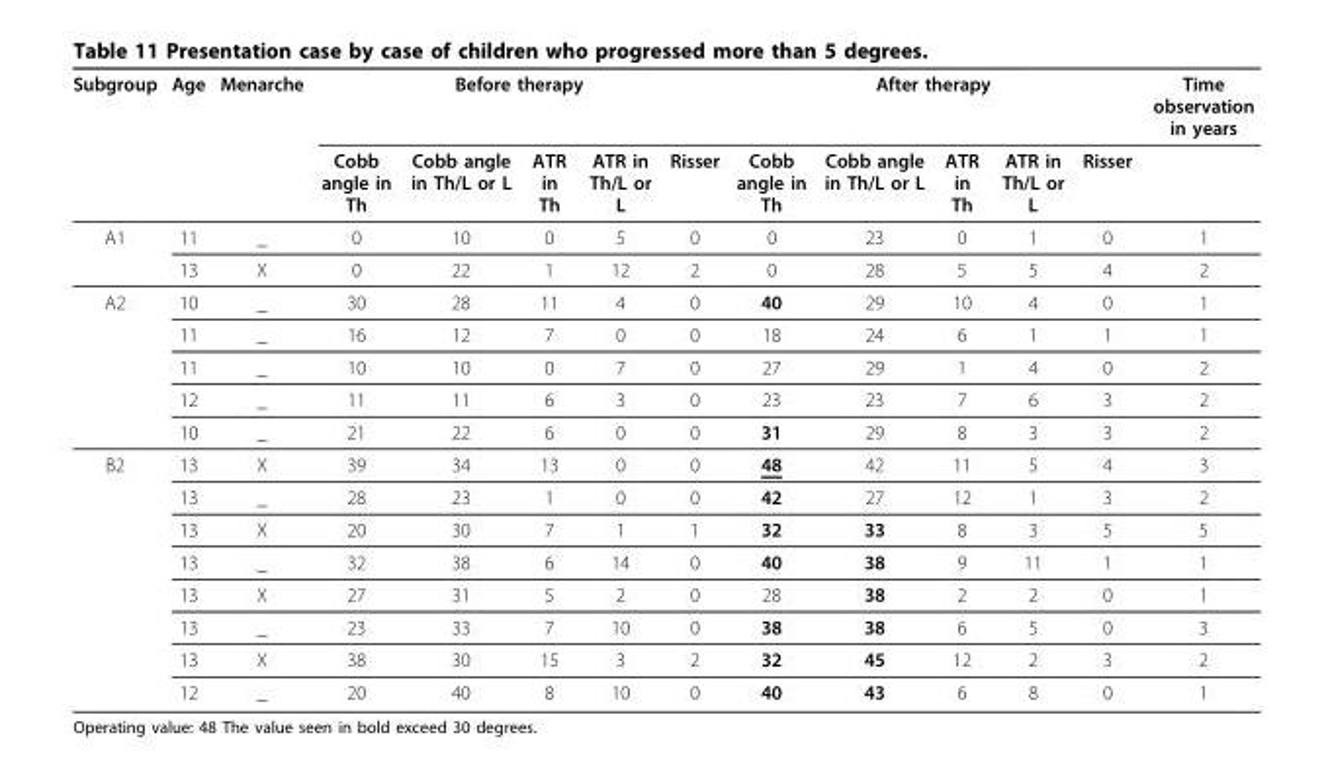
<table><thead><tr><td rowspan="2">Subgroup</td><td rowspan="2">Age</td><td rowspan="2">Menarche</td><td colspan="5">Before therapy</td><td colspan="5">After therapy</td><td rowspan="2">Time observation in years</td></tr><tr><td>Cobb angle in Th</td><td>Cobb angle in Th/L or L</td><td>ATR in Th</td><td>ATR in Th/L or L</td><td>Risser</td><td>Cobb angle in Th</td><td>Cobb angle in Th/L or L</td><td>ATR in Th</td><td>ATR in Th/L or L</td><td>Risser</td></tr></thead><tbody><tr><td rowspan="2">A1</td><td>11</td><td>_</td><td>0</td><td>10</td><td>0</td><td>5</td><td>0</td><td>0</td><td>23</td><td>0</td><td>1</td><td>0</td><td>1</td></tr><tr><td>13</td><td>X</td><td>0</td><td>22</td><td>1</td><td>12</td><td>2</td><td>0</td><td>28</td><td>5</td><td>5</td><td>4</td><td>2</td></tr><tr><td rowspan="5">A2</td><td>10</td><td>_</td><td>30</td><td>28</td><td>11</td><td>4</td><td>0</td><td>40</td><td>29</td><td>10</td><td>4</td><td>0</td><td>1</td></tr><tr><td>11</td><td>_</td><td>16</td><td>12</td><td>7</td><td>0</td><td>0</td><td>18</td><td>24</td><td>6</td><td>1</td><td>1</td><td>1</td></tr><tr><td>11</td><td>_</td><td>10</td><td>10</td><td>0</td><td>7</td><td>0</td><td>27</td><td>29</td><td>1</td><td>4</td><td>0</td><td>2</td></tr><tr><td>12</td><td>_</td><td>11</td><td>11</td><td>6</td><td>3</td><td>0</td><td>23</td><td>23</td><td>7</td><td>6</td><td>3</td><td>2</td></tr><tr><td>10</td><td>_</td><td>21</td><td>22</td><td>6</td><td>0</td><td>0</td><td>31</td><td>29</td><td>8</td><td>3</td><td>3</td><td>2</td></tr><tr><td rowspan="8">B2</td><td>13</td><td>X</td><td>39</td><td>34</td><td>13</td><td>0</td><td>0</td><td>48</td><td>42</td><td>11</td><td>5</td><td>4</td><td>3</td></tr><tr><td>13</td><td>_</td><td>28</td><td>23</td><td>1</td><td>0</td><td>0</td><td>42</td><td>27</td><td>12</td><td>1</td><td>3</td><td>2</td></tr><tr><td>13</td><td>X</td><td>20</td><td>30</td><td>7</td><td>1</td><td>1</td><td>32</td><td>33</td><td>8</td><td>3</td><td>5</td><td>5</td></tr><tr><td>13</td><td>_</td><td>32</td><td>38</td><td>6</td><td>14</td><td>0</td><td>40</td><td>38</td><td>9</td><td>11</td><td>1</td><td>1</td></tr><tr><td>13</td><td>X</td><td>27</td><td>31</td><td>5</td><td>2</td><td>0</td><td>28</td><td>38</td><td>2</td><td>2</td><td>0</td><td>1</td></tr><tr><td>13</td><td>_</td><td>23</td><td>33</td><td>7</td><td>10</td><td>0</td><td>38</td><td>38</td><td>6</td><td>5</td><td>0</td><td>3</td></tr><tr><td>13</td><td>X</td><td>38</td><td>30</td><td>15</td><td>3</td><td>2</td><td>32</td><td>45</td><td>12</td><td>2</td><td>3</td><td>2</td></tr><tr><td>12</td><td>_</td><td>20</td><td>40</td><td>8</td><td>10</td><td>0</td><td>40</td><td>43</td><td>6</td><td>8</td><td>0</td><td>1</td></tr></tbody></table>